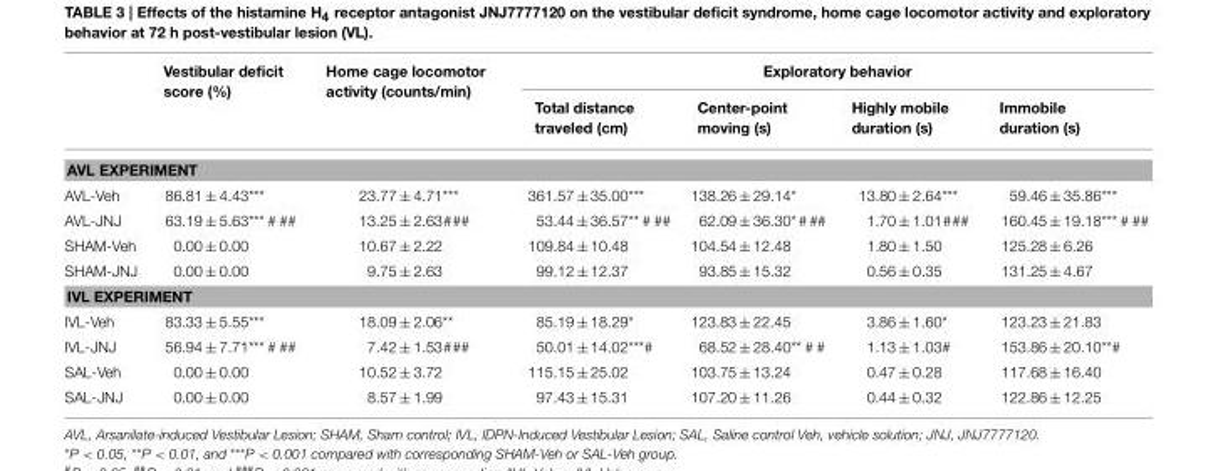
<table><thead><tr><td rowspan="2"></td><td rowspan="2">Vestibular deficit score (%)</td><td rowspan="2">Home cage locomotor activity (counts/min)</td><td colspan="4">Exploratory behavior</td></tr><tr><td>Total distance traveled (cm)</td><td>Center-point moving (s)</td><td>Highly mobile duration (s)</td><td>Immobile duration (s)</td></tr></thead><tbody><tr><td colspan="7">AVL EXPERIMENT</td></tr><tr><td>AVL-Veh</td><td>86.81 ± 4.43***</td><td>23.77 ± 4.71***</td><td>361.57 ± 35.00***</td><td>138.26 ± 29.14*</td><td>13.80 ± 2.64***</td><td>59.46 ± 35.86***</td></tr><tr><td>AVL-JNJ</td><td>63.19 ± 5.63*** # ##</td><td>13.25 ± 2.63###</td><td>53.44 ± 36.57** # ##</td><td>62.09 ± 36.30* # ##</td><td>1.70 ± 1.01###</td><td>160.45 ± 19.18*** # ##</td></tr><tr><td>SHAM-Veh</td><td>0.00 ± 0.00</td><td>10.67 ± 2.22</td><td>109.84 ± 10.48</td><td>104.54 ± 12.48</td><td>1.80 ± 1.50</td><td>125.28 ± 6.26</td></tr><tr><td>SHAM-JNJ</td><td>0.00 ± 0.00</td><td>9.75 ± 2.63</td><td>99.12 ± 12.37</td><td>93.85 ± 15.32</td><td>0.56 ± 0.35</td><td>131.25 ± 4.67</td></tr><tr><td colspan="7">IVL EXPERIMENT</td></tr><tr><td>IVL-Veh</td><td>83.33 ± 5.55***</td><td>18.09 ± 2.06**</td><td>85.19 ± 18.29*</td><td>123.83 ± 22.45</td><td>3.86 ± 1.60*</td><td>123.23 ± 21.83</td></tr><tr><td>IVL-JNJ</td><td>56.94 ± 7.71*** # ##</td><td>7.42 ± 1.53###</td><td>50.01 ± 14.02***#</td><td>68.52 ± 28.40** # #</td><td>1.13 ± 1.03#</td><td>153.86 ± 20.10**#</td></tr><tr><td>SAL-Veh</td><td>0.00 ± 0.00</td><td>10.52 ± 3.72</td><td>115.15 ± 25.02</td><td>103.75 ± 13.24</td><td>0.47 ± 0.28</td><td>117.68 ± 16.40</td></tr><tr><td>SAL-JNJ</td><td>0.00 ± 0.00</td><td>8.57 ± 1.99</td><td>97.43 ± 15.31</td><td>107.20 ± 11.26</td><td>0.44 ± 0.32</td><td>122.86 ± 12.25</td></tr></tbody></table>